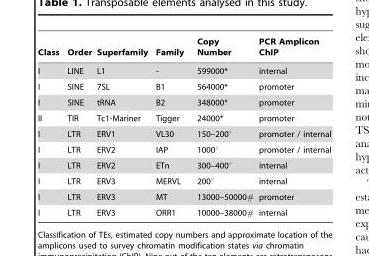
<table><thead><tr><td>Class</td><td>Order</td><td>Superfamily</td><td>Family</td><td>Copy Number</td><td>PCR Amplicon ChIP</td></tr></thead><tbody><tr><td>I</td><td>LINE</td><td>L1</td><td>-</td><td>599000*</td><td>internal</td></tr><tr><td>I</td><td>SINE</td><td>7SL</td><td>B1</td><td>564000*</td><td>promoter</td></tr><tr><td>I</td><td>SINE</td><td>tRNA</td><td>B2</td><td>348000*</td><td>promoter</td></tr><tr><td>II</td><td>TIR</td><td>Tc1-Mariner</td><td>Tigger</td><td>24000*</td><td>promoter</td></tr><tr><td>I</td><td>LTR</td><td>ERV1</td><td>VL30</td><td>150–200°</td><td>promoter / internal</td></tr><tr><td>I</td><td>LTR</td><td>ERV2</td><td>IAP</td><td>1000°</td><td>promoter / internal</td></tr><tr><td>I</td><td>LTR</td><td>ERV2</td><td>ETn</td><td>300–400°</td><td>internal</td></tr><tr><td>I</td><td>LTR</td><td>ERV3</td><td>MERVL</td><td>200°</td><td>internal</td></tr><tr><td>I</td><td>LTR</td><td>ERV3</td><td>MT</td><td>13000–50000#</td><td>promoter</td></tr><tr><td>I</td><td>LTR</td><td>ERV3</td><td>ORR1</td><td>10000–38000#</td><td>internal</td></tr></tbody></table>